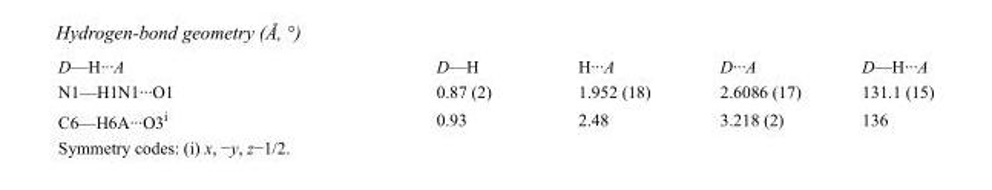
<table><tbody><tr><td>D—H···A</td><td>D—H</td><td>H···A</td><td>D···A</td><td>D—H···A</td></tr><tr><td>N1—H1N1···O1</td><td>0.87 (2)</td><td>1.952 (18)</td><td>2.6086 (17)</td><td>131.1 (15)</td></tr><tr><td>C6—H6A···O3<sup>i</sup></td><td>0.93</td><td>2.48</td><td>3.218 (2)</td><td>136</td></tr></tbody></table>